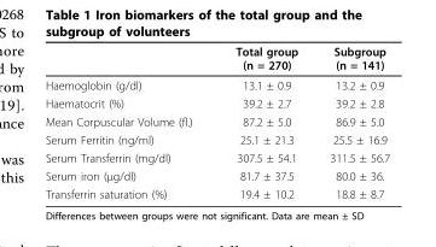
<table><thead><tr><td></td><td>Total group (n = 270)</td><td>Subgroup (n = 141)</td></tr></thead><tbody><tr><td>Haemoglobin (g/dl)</td><td>13.1 ± 0.9</td><td>13.2 ± 0.9</td></tr><tr><td>Haematocrit (%)</td><td>39.2 ± 2.7</td><td>39.2 ± 2.8</td></tr><tr><td>Mean Corpuscular Volume (fl.)</td><td>87.2 ± 5.0</td><td>86.9 ± 5.0</td></tr><tr><td>Serum Ferritin (ng/ml)</td><td>25.1 ± 21.3</td><td>25.5 ± 16.9</td></tr><tr><td>Serum Transferrin (mg/dl)</td><td>307.5 ± 54.1</td><td>311.5 ± 56.7</td></tr><tr><td>Serum iron (μg/dl)</td><td>81.7 ± 37.5</td><td>80.0 ± 36.</td></tr><tr><td>Transferrin saturation (%)</td><td>19.4 ± 10.2</td><td>18.8 ± 8.7</td></tr></tbody></table>